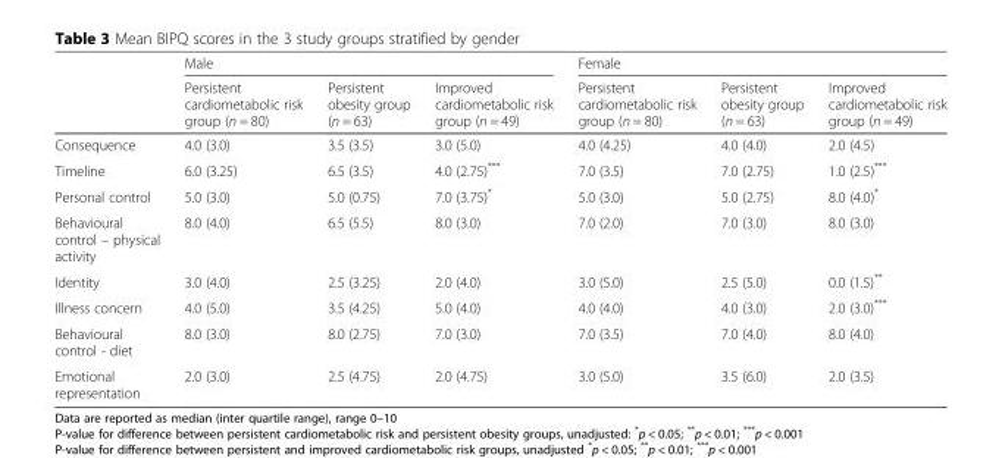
<table><thead><tr><td rowspan="2"></td><td colspan="3">Male</td><td colspan="3">Female</td></tr><tr><td>Persistent cardiometabolic risk group (n = 80)</td><td>Persistent obesity group (n = 63)</td><td>Improved cardiometabolic risk group (n = 49)</td><td>Persistent cardiometabolic risk group (n = 80)</td><td>Persistent obesity group (n = 63)</td><td>Improved cardiometabolic risk group (n = 49)</td></tr></thead><tbody><tr><td>Consequence</td><td>4.0 (3.0)</td><td>3.5 (3.5)</td><td>3.0 (5.0)</td><td>4.0 (4.25)</td><td>4.0 (4.0)</td><td>2.0 (4.5)</td></tr><tr><td>Timeline</td><td>6.0 (3.25)</td><td>6.5 (3.5)</td><td>4.0 (2.75)***</td><td>7.0 (3.5)</td><td>7.0 (2.75)</td><td>1.0 (2.5)***</td></tr><tr><td>Personal control</td><td>5.0 (3.0)</td><td>5.0 (0.75)</td><td>7.0 (3.75)*</td><td>5.0 (3.0)</td><td>5.0 (2.75)</td><td>8.0 (4.0)*</td></tr><tr><td>Behavioural control – physical activity</td><td>8.0 (4.0)</td><td>6.5 (5.5)</td><td>8.0 (3.0)</td><td>7.0 (2.0)</td><td>7.0 (3.0)</td><td>8.0 (3.0)</td></tr><tr><td>Identity</td><td>3.0 (4.0)</td><td>2.5 (3.25)</td><td>2.0 (4.0)</td><td>3.0 (5.0)</td><td>2.5 (5.0)</td><td>0.0 (1.5)**</td></tr><tr><td>Illness concern</td><td>4.0 (5.0)</td><td>3.5 (4.25)</td><td>5.0 (4.0)</td><td>4.0 (4.0)</td><td>4.0 (3.0)</td><td>2.0 (3.0)***</td></tr><tr><td>Behavioural control - diet</td><td>8.0 (3.0)</td><td>8.0 (2.75)</td><td>7.0 (3.0)</td><td>7.0 (3.5)</td><td>7.0 (4.0)</td><td>8.0 (4.0)</td></tr><tr><td>Emotional representation</td><td>2.0 (3.0)</td><td>2.5 (4.75)</td><td>2.0 (4.75)</td><td>3.0 (5.0)</td><td>3.5 (6.0)</td><td>2.0 (3.5)</td></tr></tbody></table>